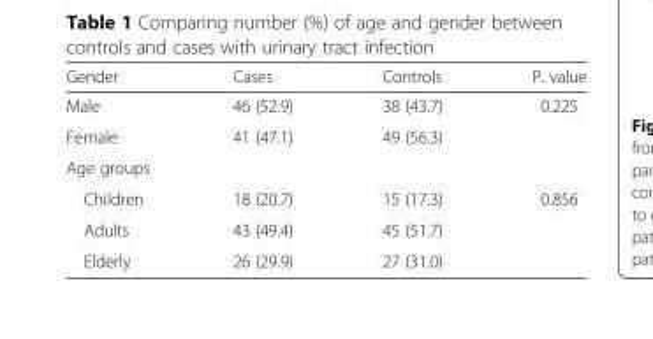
<table><thead><tr><td>Gender</td><td>Cases</td><td>Controls</td><td>P. value</td></tr></thead><tbody><tr><td>Male</td><td>46 (52.9)</td><td>38 (43.7)</td><td rowspan="2">0.225</td></tr><tr><td>Female</td><td>41 (47.1)</td><td>49 (56.3)</td></tr><tr><td colspan="4">Age groups</td></tr><tr><td>Children</td><td>18 (20.7)</td><td>15 (17.3)</td><td rowspan="3">0.856</td></tr><tr><td>Adults</td><td>43 (49.4)</td><td>45 (51.7)</td></tr><tr><td>Elderly</td><td>26 (29.9)</td><td>27 (31.0)</td></tr></tbody></table>